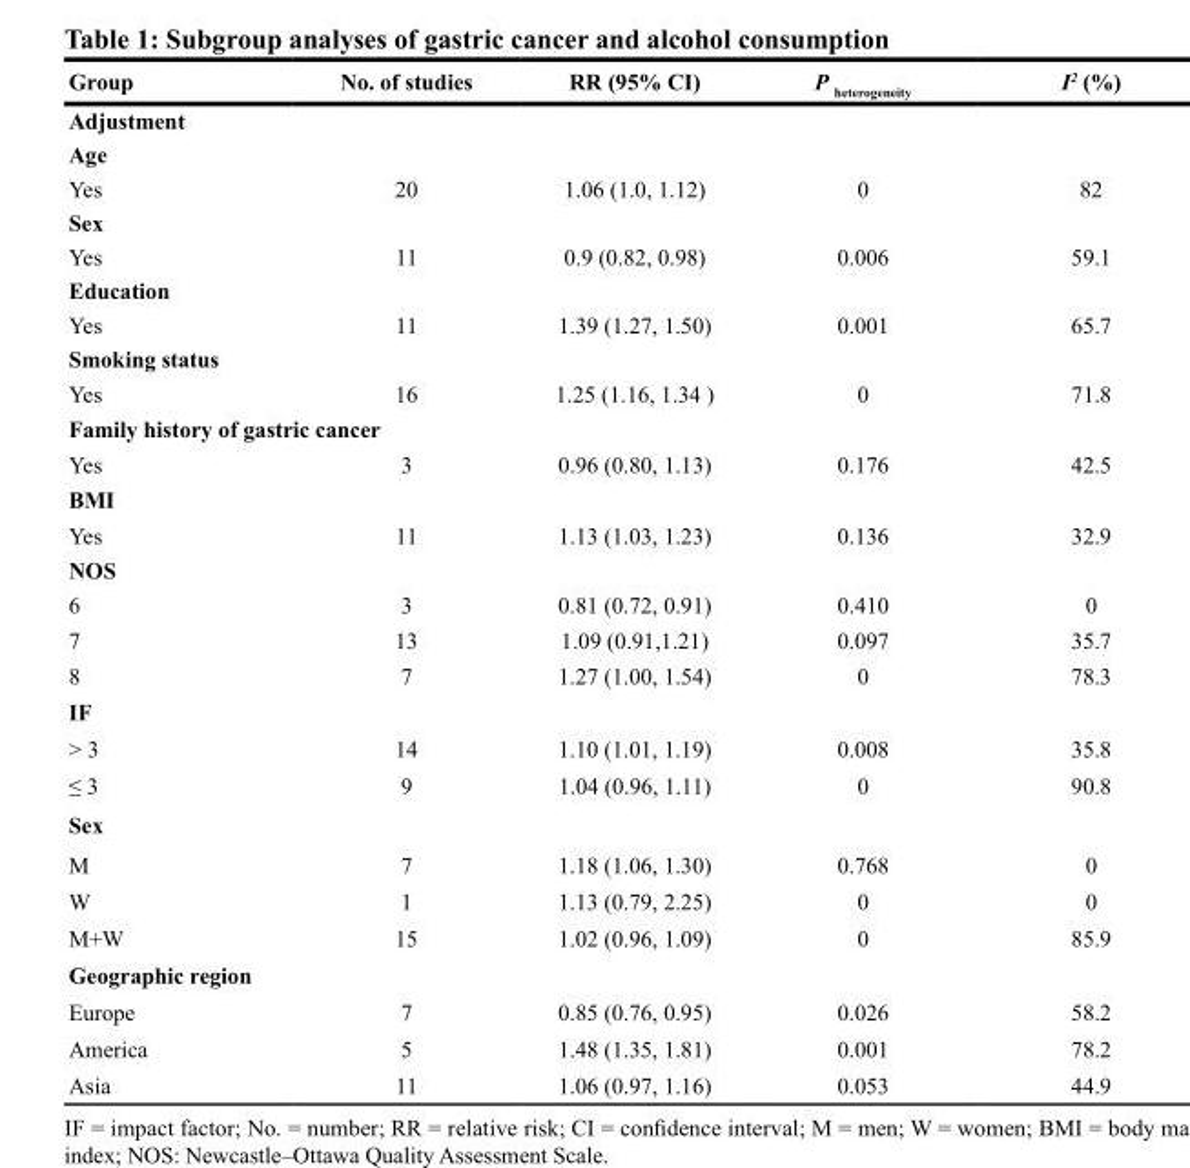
<table><thead><tr><td>Group</td><td>No. of studies</td><td>RR (95% CI)</td><td>P <sub>heterogeneity</sub></td><td>I<sup>2</sup> (%)</td></tr></thead><tbody><tr><td colspan="5">Adjustment</td></tr><tr><td colspan="5">Age</td></tr><tr><td>Yes</td><td>20</td><td>1.06 (1.0, 1.12)</td><td>0</td><td>82</td></tr><tr><td colspan="5">Sex</td></tr><tr><td>Yes</td><td>11</td><td>0.9 (0.82, 0.98)</td><td>0.006</td><td>59.1</td></tr><tr><td colspan="5">Education</td></tr><tr><td>Yes</td><td>11</td><td>1.39 (1.27, 1.50)</td><td>0.001</td><td>65.7</td></tr><tr><td colspan="5">Smoking status</td></tr><tr><td>Yes</td><td>16</td><td>1.25 (1.16, 1.34 )</td><td>0</td><td>71.8</td></tr><tr><td colspan="5">Family history of gastric cancer</td></tr><tr><td>Yes</td><td>3</td><td>0.96 (0.80, 1.13)</td><td>0.176</td><td>42.5</td></tr><tr><td colspan="5">BMI</td></tr><tr><td>Yes</td><td>11</td><td>1.13 (1.03, 1.23)</td><td>0.136</td><td>32.9</td></tr><tr><td colspan="5">NOS</td></tr><tr><td>6</td><td>3</td><td>0.81 (0.72, 0.91)</td><td>0.410</td><td>0</td></tr><tr><td>7</td><td>13</td><td>1.09 (0.91,1.21)</td><td>0.097</td><td>35.7</td></tr><tr><td>8</td><td>7</td><td>1.27 (1.00, 1.54)</td><td>0</td><td>78.3</td></tr><tr><td colspan="5">IF</td></tr><tr><td>&gt; 3</td><td>14</td><td>1.10 (1.01, 1.19)</td><td>0.008</td><td>35.8</td></tr><tr><td>≤ 3</td><td>9</td><td>1.04 (0.96, 1.11)</td><td>0</td><td>90.8</td></tr><tr><td colspan="5">Sex</td></tr><tr><td>M</td><td>7</td><td>1.18 (1.06, 1.30)</td><td>0.768</td><td>0</td></tr><tr><td>W</td><td>1</td><td>1.13 (0.79, 2.25)</td><td>0</td><td>0</td></tr><tr><td>M+W</td><td>15</td><td>1.02 (0.96, 1.09)</td><td>0</td><td>85.9</td></tr><tr><td colspan="5">Geographic region</td></tr><tr><td>Europe</td><td>7</td><td>0.85 (0.76, 0.95)</td><td>0.026</td><td>58.2</td></tr><tr><td>America</td><td>5</td><td>1.48 (1.35, 1.81)</td><td>0.001</td><td>78.2</td></tr><tr><td>Asia</td><td>11</td><td>1.06 (0.97, 1.16)</td><td>0.053</td><td>44.9</td></tr></tbody></table>